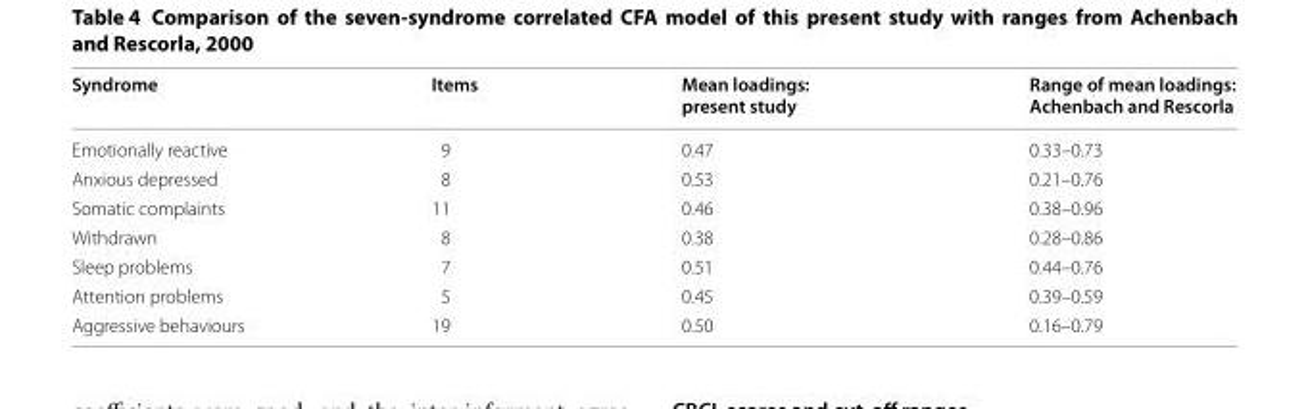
<table><thead><tr><td>Syndrome</td><td>Items</td><td>Mean loadings: present study</td><td>Range of mean loadings: Achenbach and Rescorla</td></tr></thead><tbody><tr><td>Emotionally reactive</td><td>9</td><td>0.47</td><td>0.33–0.73</td></tr><tr><td>Anxious depressed</td><td>8</td><td>0.53</td><td>0.21–0.76</td></tr><tr><td>Somatic complaints</td><td>11</td><td>0.46</td><td>0.38–0.96</td></tr><tr><td>Withdrawn</td><td>8</td><td>0.38</td><td>0.28–0.86</td></tr><tr><td>Sleep problems</td><td>7</td><td>0.51</td><td>0.44–0.76</td></tr><tr><td>Attention problems</td><td>5</td><td>0.45</td><td>0.39–0.59</td></tr><tr><td>Aggressive behaviours</td><td>19</td><td>0.50</td><td>0.16–0.79</td></tr></tbody></table>